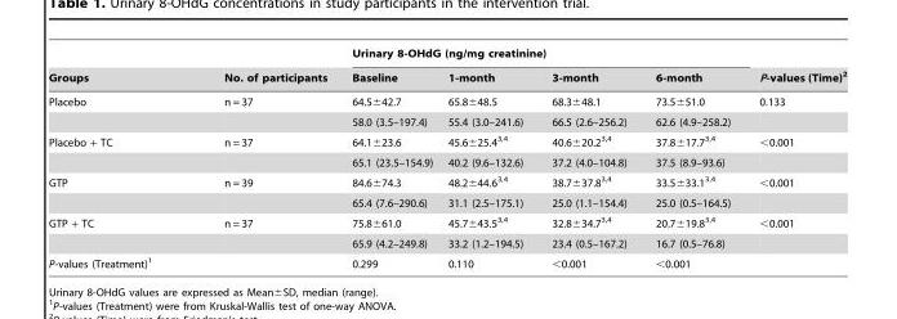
<table><thead><tr><td rowspan="2">Groups</td><td rowspan="2">No. of participants</td><td colspan="4">Urinary 8-OHdG (ng/mg creatinine)</td><td rowspan="2">P-values (Time)<sup>2</sup></td></tr><tr><td>Baseline</td><td>1-month</td><td>3-month</td><td>6-month</td></tr></thead><tbody><tr><td rowspan="2">Placebo</td><td>n = 37</td><td>64.5±42.7</td><td>65.8±48.5</td><td>68.3±48.1</td><td>73.5±51.0</td><td>0.133</td></tr><tr><td></td><td>58.0 (3.5–197.4)</td><td>55.4 (3.0–241.6)</td><td>66.5 (2.6–256.2)</td><td>62.6 (4.9–258.2)</td><td></td></tr><tr><td rowspan="2">Placebo + TC</td><td>n = 37</td><td>64.1±23.6</td><td>45.6±25.4<sup>3,4</sup></td><td>40.6±20.2<sup>3,4</sup></td><td>37.8±17.7<sup>3,4</sup></td><td>&lt;0.001</td></tr><tr><td></td><td>65.1 (23.5–154.9)</td><td>40.2 (9.6–132.6)</td><td>37.2 (4.0–104.8)</td><td>37.5 (8.9–93.6)</td><td></td></tr><tr><td rowspan="2">GTP</td><td>n = 39</td><td>84.6±74.3</td><td>48.2±44.6<sup>3,4</sup></td><td>38.7±37.8<sup>3,4</sup></td><td>33.5±33.1<sup>3,4</sup></td><td>&lt;0.001</td></tr><tr><td></td><td>65.4 (7.6–290.6)</td><td>31.1 (2.5–175.1)</td><td>25.0 (1.1–154.4)</td><td>25.0 (0.5–164.5)</td><td></td></tr><tr><td rowspan="2">GTP + TC</td><td>n = 37</td><td>75.8±61.0</td><td>45.7±43.5<sup>3,4</sup></td><td>32.8±34.7<sup>3,4</sup></td><td>20.7±19.8<sup>3,4</sup></td><td>&lt;0.001</td></tr><tr><td></td><td>65.9 (4.2–249.8)</td><td>33.2 (1.2–194.5)</td><td>23.4 (0.5–167.2)</td><td>16.7 (0.5–76.8)</td><td></td></tr><tr><td>P-values (Treatment)<sup>1</sup></td><td></td><td>0.299</td><td>0.110</td><td>&lt;0.001</td><td>&lt;0.001</td><td></td></tr></tbody></table>